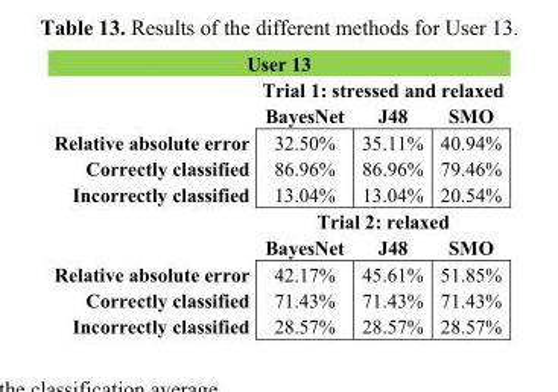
<table><thead><tr><td colspan="4">User 13</td></tr><tr><td rowspan="2"></td><td colspan="3">Trial 1: stressed and relaxed</td></tr><tr><td>BayesNet</td><td>J48</td><td>SMO</td></tr></thead><tbody><tr><td>Relative absolute error</td><td>32.50%</td><td>35.11%</td><td>40.94%</td></tr><tr><td>Correctly classified</td><td>86.96%</td><td>86.96%</td><td>79.46%</td></tr><tr><td rowspan="3">Incorrectly classified</td><td>13.04%</td><td>13.04%</td><td>20.54%</td></tr><tr><td colspan="3">Trial 2: relaxed</td></tr><tr><td>BayesNet</td><td>J48</td><td>SMO</td></tr><tr><td>Relative absolute error</td><td>42.17%</td><td>45.61%</td><td>51.85%</td></tr><tr><td>Correctly classified</td><td>71.43%</td><td>71.43%</td><td>71.43%</td></tr><tr><td>Incorrectly classified</td><td>28.57%</td><td>28.57%</td><td>28.57%</td></tr></tbody></table>